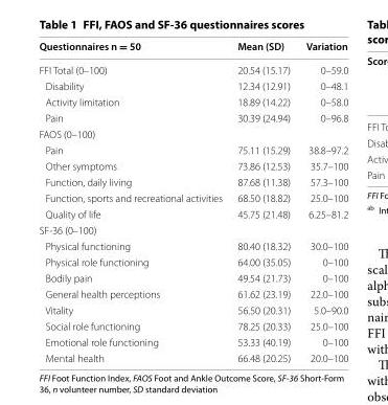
<table><thead><tr><td>Questionnaires n = 50</td><td>Mean (SD)</td><td>Variation</td></tr></thead><tbody><tr><td>FFI Total (0–100)</td><td>20.54 (15.17)</td><td>0–59.0</td></tr><tr><td>Disability</td><td>12.34 (12.91)</td><td>0–48.1</td></tr><tr><td>Activity limitation</td><td>18.89 (14.22)</td><td>0–58.0</td></tr><tr><td>Pain</td><td>30.39 (24.94)</td><td>0–96.8</td></tr><tr><td colspan="3">FAOS (0–100)</td></tr><tr><td>Pain</td><td>75.11 (15.29)</td><td>38.8–97.2</td></tr><tr><td>Other symptoms</td><td>73.86 (12.53)</td><td>35.7–100</td></tr><tr><td>Function, daily living</td><td>87.68 (11.38)</td><td>57.3–100</td></tr><tr><td>Function, sports and recreational activities</td><td>68.50 (18.82)</td><td>25.0–100</td></tr><tr><td>Quality of life</td><td>45.75 (21.48)</td><td>6.25–81.2</td></tr><tr><td colspan="3">SF‑36 (0–100)</td></tr><tr><td>Physical functioning</td><td>80.40 (18.32)</td><td>30.0–100</td></tr><tr><td>Physical role functioning</td><td>64.00 (35.05)</td><td>0–100</td></tr><tr><td>Bodily pain</td><td>49.54 (21.73)</td><td>0–100</td></tr><tr><td>General health perceptions</td><td>61.62 (23.19)</td><td>22.0–100</td></tr><tr><td>Vitality</td><td>56.50 (20.31)</td><td>5.0–90.0</td></tr><tr><td>Social role functioning</td><td>78.25 (20.33)</td><td>25.0–100</td></tr><tr><td>Emotional role functioning</td><td>53.33 (40.19)</td><td>0–100</td></tr><tr><td>Mental health</td><td>66.48 (20.25)</td><td>20.0–100</td></tr></tbody></table>